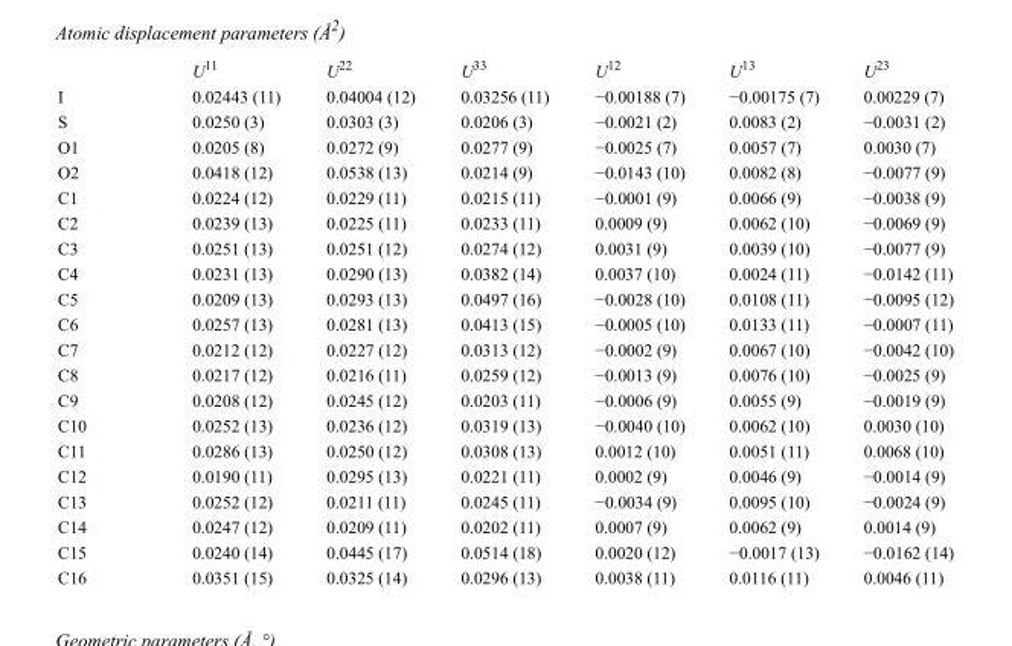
<table><thead><tr><td></td><td>U<sup>11</sup></td><td>U<sup>22</sup></td><td>U<sup>33</sup></td><td>U<sup>12</sup></td><td>U<sup>13</sup></td><td>U<sup>23</sup></td></tr></thead><tbody><tr><td>I</td><td>0.02443 (11)</td><td>0.04004 (12)</td><td>0.03256 (11)</td><td>−0.00188 (7)</td><td>−0.00175 (7)</td><td>0.00229 (7)</td></tr><tr><td>S</td><td>0.0250 (3)</td><td>0.0303 (3)</td><td>0.0206 (3)</td><td>−0.0021 (2)</td><td>0.0083 (2)</td><td>−0.0031 (2)</td></tr><tr><td>O1</td><td>0.0205 (8)</td><td>0.0272 (9)</td><td>0.0277 (9)</td><td>−0.0025 (7)</td><td>0.0057 (7)</td><td>0.0030 (7)</td></tr><tr><td>O2</td><td>0.0418 (12)</td><td>0.0538 (13)</td><td>0.0214 (9)</td><td>−0.0143 (10)</td><td>0.0082 (8)</td><td>−0.0077 (9)</td></tr><tr><td>C1</td><td>0.0224 (12)</td><td>0.0229 (11)</td><td>0.0215 (11)</td><td>−0.0001 (9)</td><td>0.0066 (9)</td><td>−0.0038 (9)</td></tr><tr><td>C2</td><td>0.0239 (13)</td><td>0.0225 (11)</td><td>0.0233 (11)</td><td>0.0009 (9)</td><td>0.0062 (10)</td><td>−0.0069 (9)</td></tr><tr><td>C3</td><td>0.0251 (13)</td><td>0.0251 (12)</td><td>0.0274 (12)</td><td>0.0031 (9)</td><td>0.0039 (10)</td><td>−0.0077 (9)</td></tr><tr><td>C4</td><td>0.0231 (13)</td><td>0.0290 (13)</td><td>0.0382 (14)</td><td>0.0037 (10)</td><td>0.0024 (11)</td><td>−0.0142 (11)</td></tr><tr><td>C5</td><td>0.0209 (13)</td><td>0.0293 (13)</td><td>0.0497 (16)</td><td>−0.0028 (10)</td><td>0.0108 (11)</td><td>−0.0095 (12)</td></tr><tr><td>C6</td><td>0.0257 (13)</td><td>0.0281 (13)</td><td>0.0413 (15)</td><td>−0.0005 (10)</td><td>0.0133 (11)</td><td>−0.0007 (11)</td></tr><tr><td>C7</td><td>0.0212 (12)</td><td>0.0227 (12)</td><td>0.0313 (12)</td><td>−0.0002 (9)</td><td>0.0067 (10)</td><td>−0.0042 (10)</td></tr><tr><td>C8</td><td>0.0217 (12)</td><td>0.0216 (11)</td><td>0.0259 (12)</td><td>−0.0013 (9)</td><td>0.0076 (10)</td><td>−0.0025 (9)</td></tr><tr><td>C9</td><td>0.0208 (12)</td><td>0.0245 (12)</td><td>0.0203 (11)</td><td>−0.0006 (9)</td><td>0.0055 (9)</td><td>−0.0019 (9)</td></tr><tr><td>C10</td><td>0.0252 (13)</td><td>0.0236 (12)</td><td>0.0319 (13)</td><td>−0.0040 (10)</td><td>0.0062 (10)</td><td>0.0030 (10)</td></tr><tr><td>C11</td><td>0.0286 (13)</td><td>0.0250 (12)</td><td>0.0308 (13)</td><td>0.0012 (10)</td><td>0.0051 (11)</td><td>0.0068 (10)</td></tr><tr><td>C12</td><td>0.0190 (11)</td><td>0.0295 (13)</td><td>0.0221 (11)</td><td>0.0002 (9)</td><td>0.0046 (9)</td><td>−0.0014 (9)</td></tr><tr><td>C13</td><td>0.0252 (12)</td><td>0.0211 (11)</td><td>0.0245 (11)</td><td>−0.0034 (9)</td><td>0.0095 (10)</td><td>−0.0024 (9)</td></tr><tr><td>C14</td><td>0.0247 (12)</td><td>0.0209 (11)</td><td>0.0202 (11)</td><td>0.0007 (9)</td><td>0.0062 (9)</td><td>0.0014 (9)</td></tr><tr><td>C15</td><td>0.0240 (14)</td><td>0.0445 (17)</td><td>0.0514 (18)</td><td>0.0020 (12)</td><td>−0.0017 (13)</td><td>−0.0162 (14)</td></tr><tr><td>C16</td><td>0.0351 (15)</td><td>0.0325 (14)</td><td>0.0296 (13)</td><td>0.0038 (11)</td><td>0.0116 (11)</td><td>0.0046 (11)</td></tr></tbody></table>